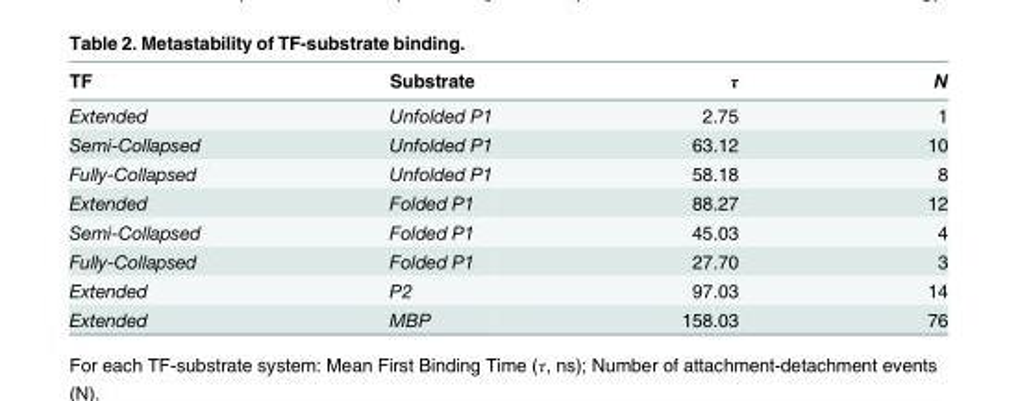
<table><thead><tr><td>TF</td><td>Substrate</td><td>τ</td><td>N</td></tr></thead><tbody><tr><td>Extended</td><td>Unfolded P1</td><td>2.75</td><td>1</td></tr><tr><td>Semi-Collapsed</td><td>Unfolded P1</td><td>63.12</td><td>10</td></tr><tr><td>Fully-Collapsed</td><td>Unfolded P1</td><td>58.18</td><td>8</td></tr><tr><td>Extended</td><td>Folded P1</td><td>88.27</td><td>12</td></tr><tr><td>Semi-Collapsed</td><td>Folded P1</td><td>45.03</td><td>4</td></tr><tr><td>Fully-Collapsed</td><td>Folded P1</td><td>27.70</td><td>3</td></tr><tr><td>Extended</td><td>P2</td><td>97.03</td><td>14</td></tr><tr><td>Extended</td><td>MBP</td><td>158.03</td><td>76</td></tr></tbody></table>